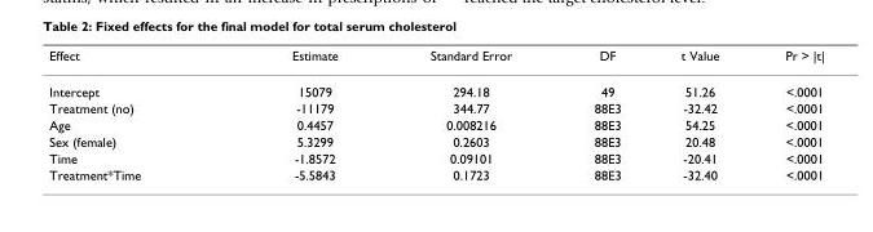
<table><thead><tr><td>Effect</td><td>Estimate</td><td>Standard Error</td><td>DF</td><td>t Value</td><td>Pr &gt; |t|</td></tr></thead><tbody><tr><td>Intercept</td><td>15079</td><td>294.18</td><td>49</td><td>51.26</td><td>&lt;.0001</td></tr><tr><td>Treatment (no)</td><td>-11179</td><td>344.77</td><td>88E3</td><td>-32.42</td><td>&lt;.0001</td></tr><tr><td>Age</td><td>0.4457</td><td>0.008216</td><td>88E3</td><td>54.25</td><td>&lt;.0001</td></tr><tr><td>Sex (female)</td><td>5.3299</td><td>0.2603</td><td>88E3</td><td>20.48</td><td>&lt;.0001</td></tr><tr><td>Time</td><td>-1.8572</td><td>0.09101</td><td>88E3</td><td>-20.41</td><td>&lt;.0001</td></tr><tr><td>Treatment*Time</td><td>-5.5843</td><td>0.1723</td><td>88E3</td><td>-32.40</td><td>&lt;.0001</td></tr></tbody></table>